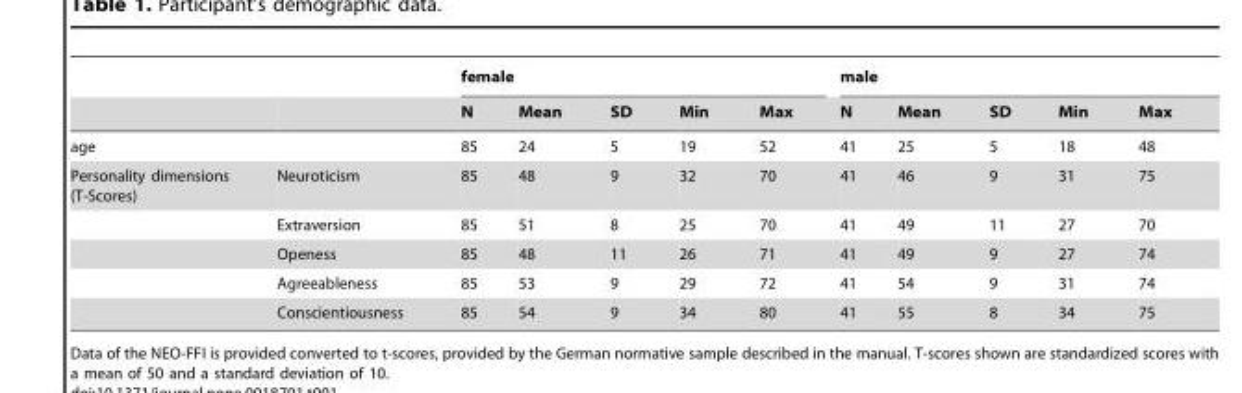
<table><thead><tr><td rowspan="2"></td><td rowspan="2"></td><td colspan="5">female</td><td colspan="5">male</td></tr><tr><td>N</td><td>Mean</td><td>SD</td><td>Min</td><td>Max</td><td>N</td><td>Mean</td><td>SD</td><td>Min</td><td>Max</td></tr></thead><tbody><tr><td>age</td><td></td><td>85</td><td>24</td><td>5</td><td>19</td><td>52</td><td>41</td><td>25</td><td>5</td><td>18</td><td>48</td></tr><tr><td rowspan="5">Personality dimensions (T-Scores)</td><td>Neuroticism</td><td>85</td><td>48</td><td>9</td><td>32</td><td>70</td><td>41</td><td>46</td><td>9</td><td>31</td><td>75</td></tr><tr><td>Extraversion</td><td>85</td><td>51</td><td>8</td><td>25</td><td>70</td><td>41</td><td>49</td><td>11</td><td>27</td><td>70</td></tr><tr><td>Openess</td><td>85</td><td>48</td><td>11</td><td>26</td><td>71</td><td>41</td><td>49</td><td>9</td><td>27</td><td>74</td></tr><tr><td>Agreeableness</td><td>85</td><td>53</td><td>9</td><td>29</td><td>72</td><td>41</td><td>54</td><td>9</td><td>31</td><td>74</td></tr><tr><td>Conscientiousness</td><td>85</td><td>54</td><td>9</td><td>34</td><td>80</td><td>41</td><td>55</td><td>8</td><td>34</td><td>75</td></tr></tbody></table>